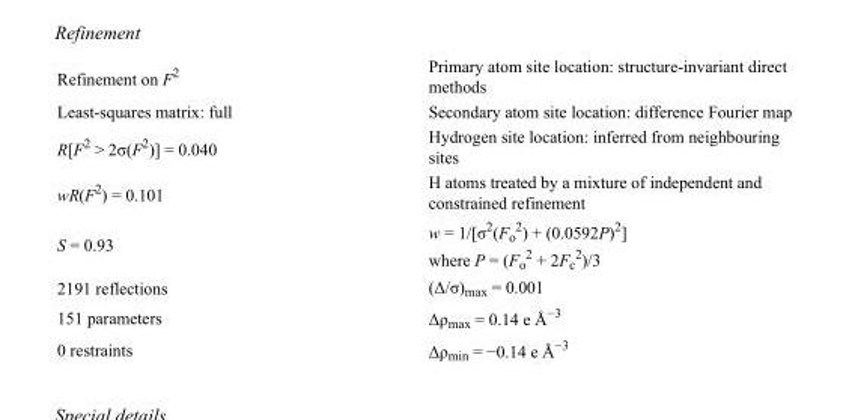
<table><tbody><tr><td>Refinement on F<sup>2</sup></td><td>Primary atom site location: structure-invariant direct methods</td></tr><tr><td>Least-squares matrix: full</td><td>Secondary atom site location: difference Fourier map</td></tr><tr><td>R[F<sup>2</sup> &gt; 2σ(F<sup>2</sup>)] = 0.040</td><td>Hydrogen site location: inferred from neighbouring sites</td></tr><tr><td>wR(F<sup>2</sup>) = 0.101</td><td>H atoms treated by a mixture of independent and constrained refinement</td></tr><tr><td>S = 0.93</td><td>w = 1/[σ<sup>2</sup>(F<sub>o</sub> <sup>2</sup>) + (0.0592P)<sup>2</sup>] where P = (F<sub>o</sub> <sup>2</sup> + 2F<sub>c</sub> <sup>2</sup>)/3</td></tr><tr><td>2191 reflections</td><td>(Δ/σ)<sub>max</sub> = 0.001</td></tr><tr><td>151 parameters</td><td>Δρ<sub>max</sub> = 0.14 e Å<sup>−3</sup></td></tr><tr><td>0 restraints</td><td>Δρ<sub>min</sub> = −0.14 e Å<sup>−3</sup></td></tr></tbody></table>